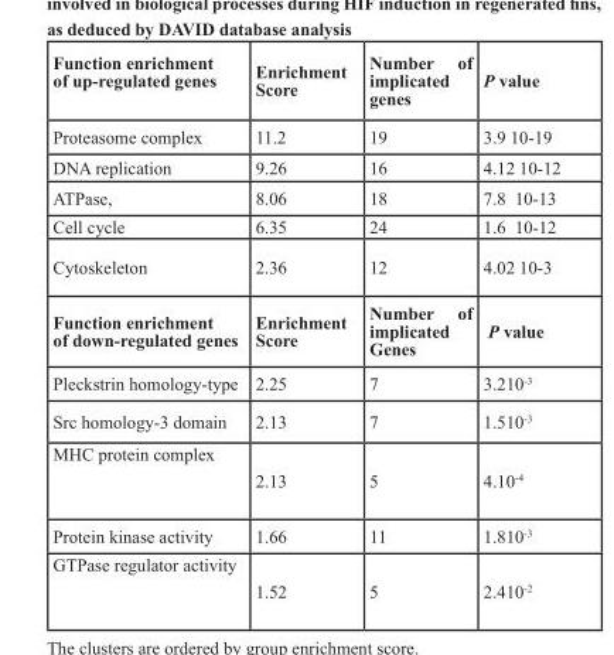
<table><tbody><tr><td>Function enrichment of up-regulated genes</td><td>Enrichment Score</td><td>Number of implicated genes</td><td>P value</td></tr><tr><td>Proteasome complex</td><td>11.2</td><td>19</td><td>3.9 10-19</td></tr><tr><td>DNA replication</td><td>9.26</td><td>16</td><td>4.12 10-12</td></tr><tr><td>ATPase,</td><td>8.06</td><td>18</td><td>7.8 10-13</td></tr><tr><td>Cell cycle</td><td>6.35</td><td>24</td><td>1.6 10-12</td></tr><tr><td>Cytoskeleton</td><td>2.36</td><td>12</td><td>4.02 10-3</td></tr><tr><td>Function enrichment of down-regulated genes</td><td>Enrichment Score</td><td>Number of implicated Genes</td><td>P value</td></tr><tr><td>Pleckstrin homology-type</td><td>2.25</td><td>7</td><td>3.210<sup>-3</sup></td></tr><tr><td>Src homology-3 domain</td><td>2.13</td><td>7</td><td>1.510<sup>-3</sup></td></tr><tr><td>MHC protein complex</td><td>2.13</td><td>5</td><td>4.10<sup>-4</sup></td></tr><tr><td>Protein kinase activity</td><td>1.66</td><td>11</td><td>1.810<sup>-3</sup></td></tr><tr><td>GTPase regulator activity</td><td>1.52</td><td>5</td><td>2.410<sup>-2</sup></td></tr></tbody></table>